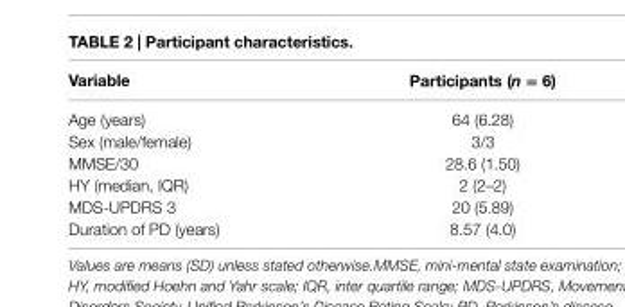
<table><thead><tr><td>Variable</td><td>Participants (n = 6)</td></tr></thead><tbody><tr><td>Age (years)</td><td>64 (6.28)</td></tr><tr><td>Sex (male/female)</td><td>3/3</td></tr><tr><td>MMSE/30</td><td>28.6 (1.50)</td></tr><tr><td>HY (median, IQR)</td><td>2 (2–2)</td></tr><tr><td>MDS-UPDRS 3</td><td>20 (5.89)</td></tr><tr><td>Duration of PD (years)</td><td>8.57 (4.0)</td></tr></tbody></table>